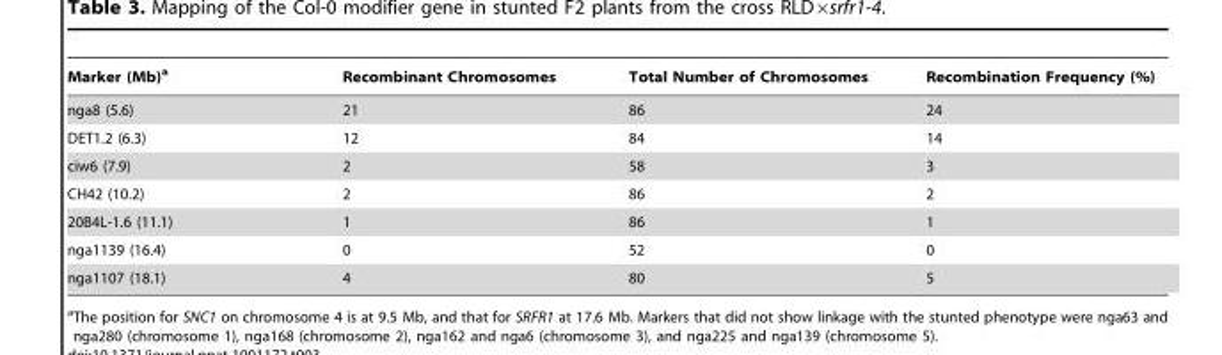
<table><thead><tr><td>Marker (Mb)<sup>a</sup></td><td>Recombinant Chromosomes</td><td>Total Number of Chromosomes</td><td>Recombination Frequency (%)</td></tr></thead><tbody><tr><td>nga8 (5.6)</td><td>21</td><td>86</td><td>24</td></tr><tr><td>DET1.2 (6.3)</td><td>12</td><td>84</td><td>14</td></tr><tr><td>ciw6 (7.9)</td><td>2</td><td>58</td><td>3</td></tr><tr><td>CH42 (10.2)</td><td>2</td><td>86</td><td>2</td></tr><tr><td>20B4L-1.6 (11.1)</td><td>1</td><td>86</td><td>1</td></tr><tr><td>nga1139 (16.4)</td><td>0</td><td>52</td><td>0</td></tr><tr><td>nga1107 (18.1)</td><td>4</td><td>80</td><td>5</td></tr></tbody></table>